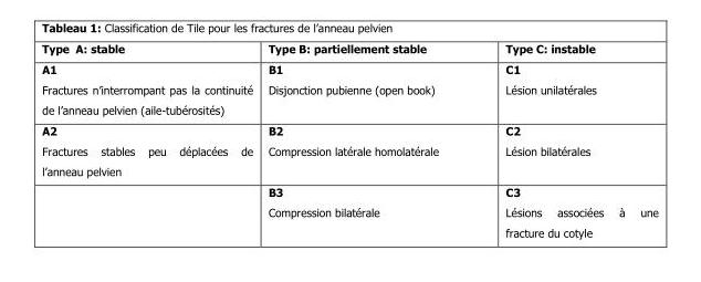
<table><thead><tr><td>Type A: stable</td><td>Type B: partiellement stable</td><td>Type C: instable</td></tr></thead><tbody><tr><td>A1 Fractures n’interrompant pas la continuité de l’anneau pelvien (aile-tubérosités)</td><td>B1 Disjonction pubienne (open book)</td><td>C1 Lésion unilatérales</td></tr><tr><td rowspan="2">A2 Fractures stables peu déplacées de l’anneau pelvien</td><td>B2 Compression latérale homolatérale</td><td>C2 Lésion bilatérales</td></tr><tr><td>B3 Compression bilatérale</td><td>C3 Lésions associées à une fracture du cotyle</td></tr></tbody></table>